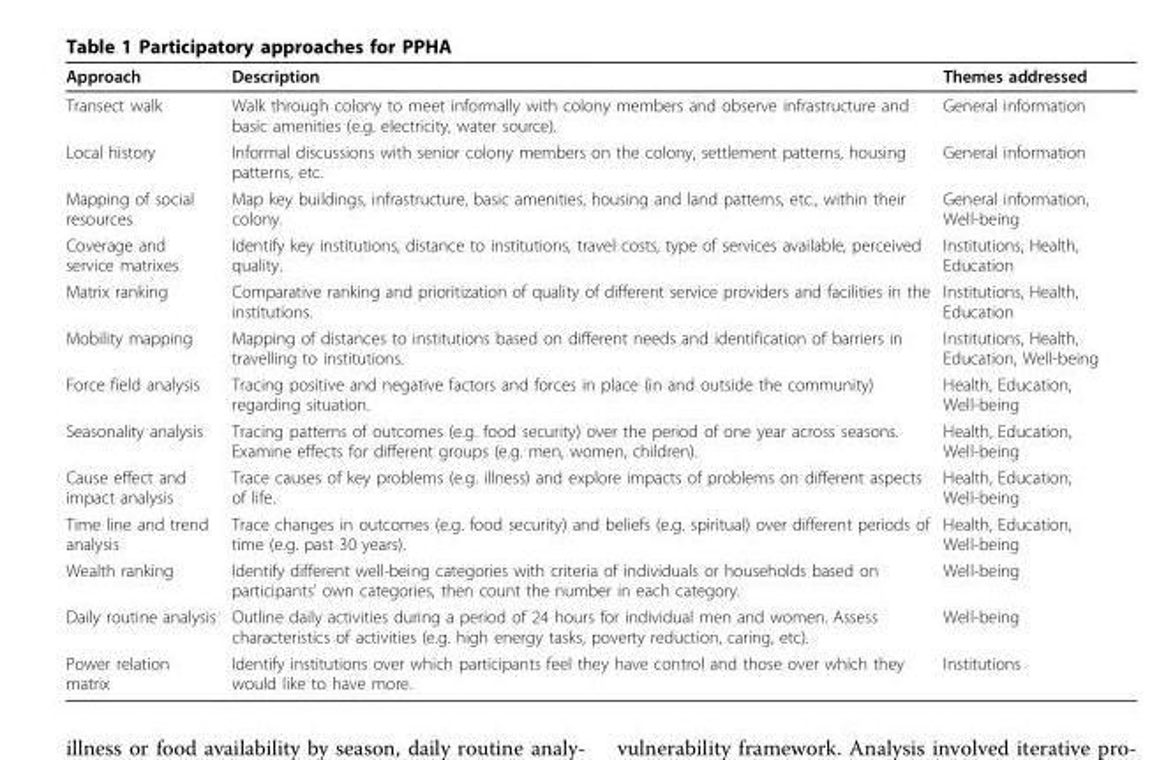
<table><thead><tr><td>Approach</td><td>Description</td><td>Themes addressed</td></tr></thead><tbody><tr><td>Transect walk</td><td>Walk through colony to meet informally with colony members and observe infrastructure and basic amenities (e.g. electricity, water source).</td><td>General information</td></tr><tr><td>Local history</td><td>Informal discussions with senior colony members on the colony, settlement patterns, housing patterns, etc.</td><td>General information</td></tr><tr><td>Mapping of social resources</td><td>Map key buildings, infrastructure, basic amenities, housing and land patterns, etc., within their colony.</td><td>General information, Well-being</td></tr><tr><td>Coverage and service matrixes</td><td>Identify key institutions, distance to institutions, travel costs, type of services available, perceived quality.</td><td>Institutions, Health, Education</td></tr><tr><td>Matrix ranking</td><td>Comparative ranking and prioritization of quality of different service providers and facilities in the institutions.</td><td>Institutions, Health, Education</td></tr><tr><td>Mobility mapping</td><td>Mapping of distances to institutions based on different needs and identification of barriers in travelling to institutions.</td><td>Institutions, Health, Education, Well-being</td></tr><tr><td>Force field analysis</td><td>Tracing positive and negative factors and forces in place (in and outside the community) regarding situation.</td><td>Health, Education, Well-being</td></tr><tr><td>Seasonality analysis</td><td>Tracing patterns of outcomes (e.g. food security) over the period of one year across seasons. Examine effects for different groups (e.g. men, women, children).</td><td>Health, Education, Well-being</td></tr><tr><td>Cause effect and impact analysis</td><td>Trace causes of key problems (e.g. illness) and explore impacts of problems on different aspects of life.</td><td>Health, Education, Well-being</td></tr><tr><td>Time line and trend analysis</td><td>Trace changes in outcomes (e.g. food security) and beliefs (e.g. spiritual) over different periods of time (e.g. past 30 years).</td><td>Health, Education, Well-being</td></tr><tr><td>Wealth ranking</td><td>Identify different well-being categories with criteria of individuals or households based on participants’ own categories, then count the number in each category.</td><td>Well-being</td></tr><tr><td>Daily routine analysis</td><td>Outline daily activities during a period of 24 hours for individual men and women. Assess characteristics of activities (e.g. high energy tasks, poverty reduction, caring, etc).</td><td>Well-being</td></tr><tr><td>Power relation matrix</td><td>Identify institutions over which participants feel they have control and those over which they would like to have more.</td><td>Institutions</td></tr></tbody></table>